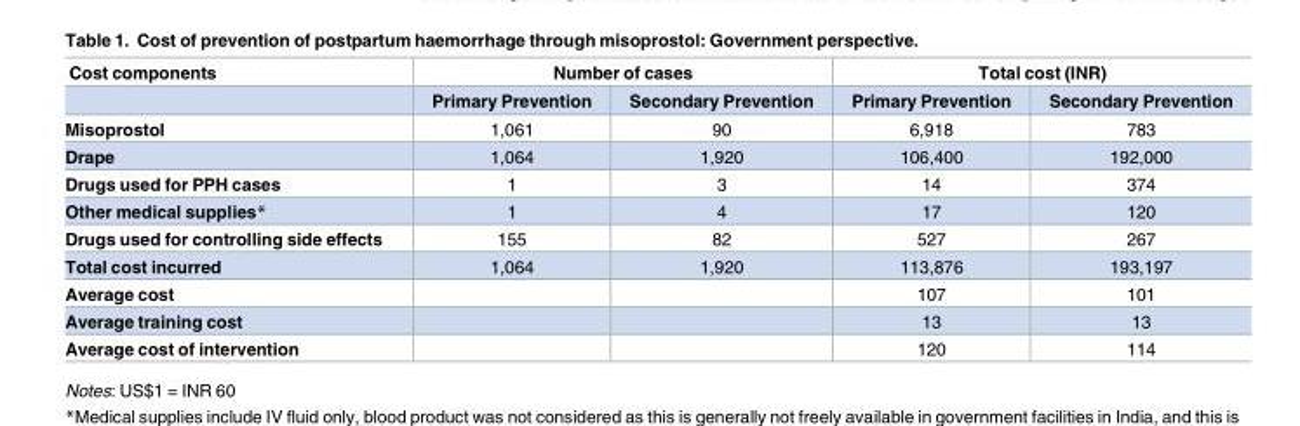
<table><thead><tr><td rowspan="2">Cost components</td><td colspan="2">Number of cases</td><td colspan="2">Total cost (INR)</td></tr><tr><td>Primary Prevention</td><td>Secondary Prevention</td><td>Primary Prevention</td><td>Secondary Prevention</td></tr></thead><tbody><tr><td>Misoprostol</td><td>1,061</td><td>90</td><td>6,918</td><td>783</td></tr><tr><td>Drape</td><td>1,064</td><td>1,920</td><td>106,400</td><td>192,000</td></tr><tr><td>Drugs used for PPH cases</td><td>1</td><td>3</td><td>14</td><td>374</td></tr><tr><td>Other medical supplies*</td><td>1</td><td>4</td><td>17</td><td>120</td></tr><tr><td>Drugs used for controlling side effects</td><td>155</td><td>82</td><td>527</td><td>267</td></tr><tr><td>Total cost incurred</td><td>1,064</td><td>1,920</td><td>113,876</td><td>193,197</td></tr><tr><td>Average cost</td><td></td><td></td><td>107</td><td>101</td></tr><tr><td>Average training cost</td><td></td><td></td><td>13</td><td>13</td></tr><tr><td>Average cost of intervention</td><td></td><td></td><td>120</td><td>114</td></tr></tbody></table>